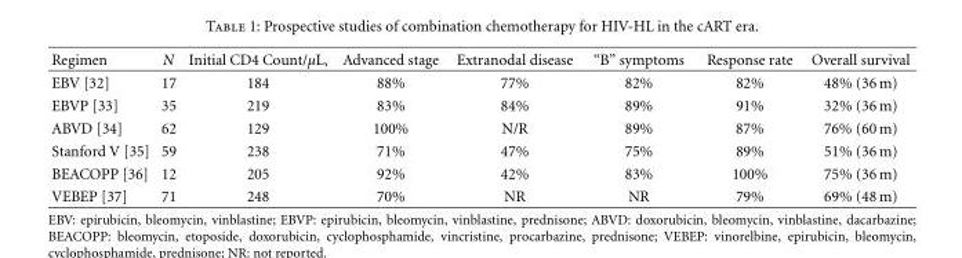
<table><thead><tr><td>Regimen</td><td>N</td><td>Initial CD4 Count/µL,</td><td>Advanced stage</td><td>Extranodal disease</td><td>“B” symptoms</td><td>Response rate</td><td>Overall survival</td></tr></thead><tbody><tr><td>EBV [32]</td><td>17</td><td>184</td><td>88%</td><td>77%</td><td>82%</td><td>82%</td><td>48% (36 m)</td></tr><tr><td>EBVP [33]</td><td>35</td><td>219</td><td>83%</td><td>84%</td><td>89%</td><td>91%</td><td>32% (36 m)</td></tr><tr><td>ABVD [34]</td><td>62</td><td>129</td><td>100%</td><td>N/R</td><td>89%</td><td>87%</td><td>76% (60 m)</td></tr><tr><td>Stanford V [35]</td><td>59</td><td>238</td><td>71%</td><td>47%</td><td>75%</td><td>89%</td><td>51% (36 m)</td></tr><tr><td>BEACOPP [36]</td><td>12</td><td>205</td><td>92%</td><td>42%</td><td>83%</td><td>100%</td><td>75% (36 m)</td></tr><tr><td>VEBEP [37]</td><td>71</td><td>248</td><td>70%</td><td>NR</td><td>NR</td><td>79%</td><td>69% (48 m)</td></tr></tbody></table>